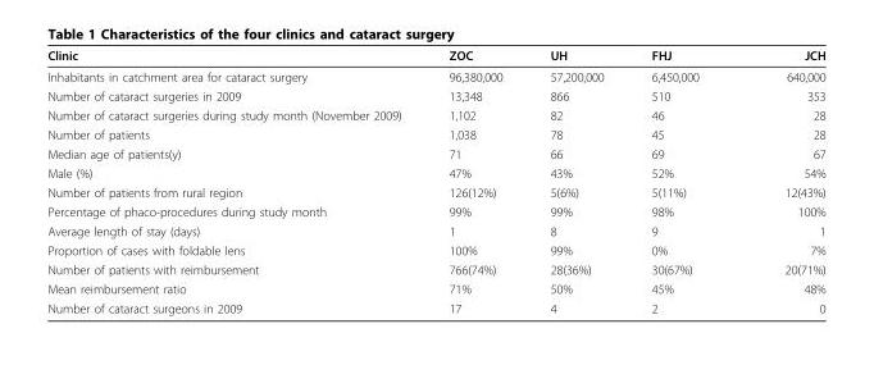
<table><thead><tr><td>Clinic</td><td>ZOC</td><td>UH</td><td>FHJ</td><td>JCH</td></tr></thead><tbody><tr><td>Inhabitants in catchment area for cataract surgery</td><td>96,380,000</td><td>57,200,000</td><td>6,450,000</td><td>640,000</td></tr><tr><td>Number of cataract surgeries in 2009</td><td>13,348</td><td>866</td><td>510</td><td>353</td></tr><tr><td>Number of cataract surgeries during study month (November 2009)</td><td>1,102</td><td>82</td><td>46</td><td>28</td></tr><tr><td>Number of patients</td><td>1,038</td><td>78</td><td>45</td><td>28</td></tr><tr><td>Median age of patients(y)</td><td>71</td><td>66</td><td>69</td><td>67</td></tr><tr><td>Male (%)</td><td>47%</td><td>43%</td><td>52%</td><td>54%</td></tr><tr><td>Number of patients from rural region</td><td>126(12%)</td><td>5(6%)</td><td>5(11%)</td><td>12(43%)</td></tr><tr><td>Percentage of phaco-procedures during study month</td><td>99%</td><td>99%</td><td>98%</td><td>100%</td></tr><tr><td>Average length of stay (days)</td><td>1</td><td>8</td><td>9</td><td>1</td></tr><tr><td>Proportion of cases with foldable lens</td><td>100%</td><td>99%</td><td>0%</td><td>7%</td></tr><tr><td>Number of patients with reimbursement</td><td>766(74%)</td><td>28(36%)</td><td>30(67%)</td><td>20(71%)</td></tr><tr><td>Mean reimbursement ratio</td><td>71%</td><td>50%</td><td>45%</td><td>48%</td></tr><tr><td>Number of cataract surgeons in 2009</td><td>17</td><td>4</td><td>2</td><td>0</td></tr></tbody></table>